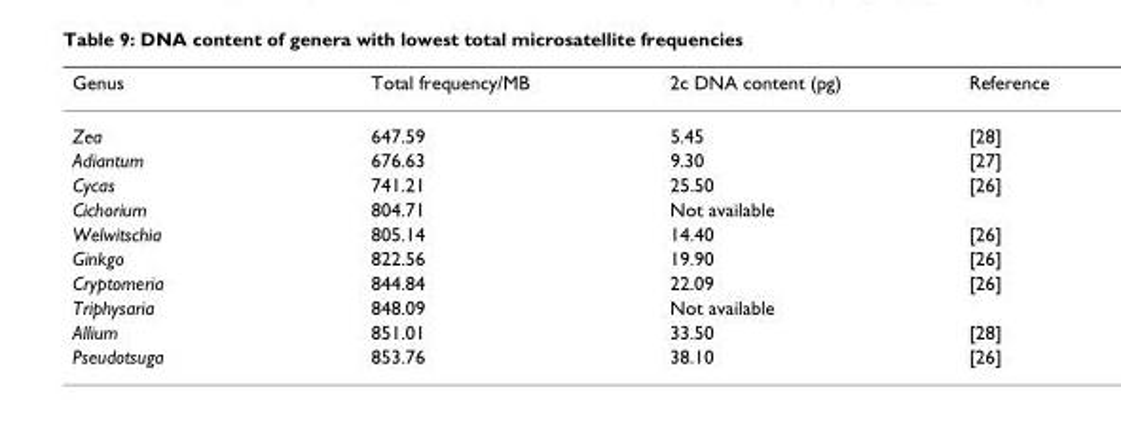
<table><thead><tr><td>Genus</td><td>Total frequency/MB</td><td>2c DNA content (pg)</td><td>Reference</td></tr></thead><tbody><tr><td>Zea</td><td>647.59</td><td>5.45</td><td>[28]</td></tr><tr><td>Adiantum</td><td>676.63</td><td>9.30</td><td>[27]</td></tr><tr><td>Cycas</td><td>741.21</td><td>25.50</td><td>[26]</td></tr><tr><td>Cichorium</td><td>804.71</td><td>Not available</td><td></td></tr><tr><td>Welwitschia</td><td>805.14</td><td>14.40</td><td>[26]</td></tr><tr><td>Ginkgo</td><td>822.56</td><td>19.90</td><td>[26]</td></tr><tr><td>Cryptomeria</td><td>844.84</td><td>22.09</td><td>[26]</td></tr><tr><td>Triphysaria</td><td>848.09</td><td>Not available</td><td></td></tr><tr><td>Allium</td><td>851.01</td><td>33.50</td><td>[28]</td></tr><tr><td>Pseudotsuga</td><td>853.76</td><td>38.10</td><td>[26]</td></tr></tbody></table>